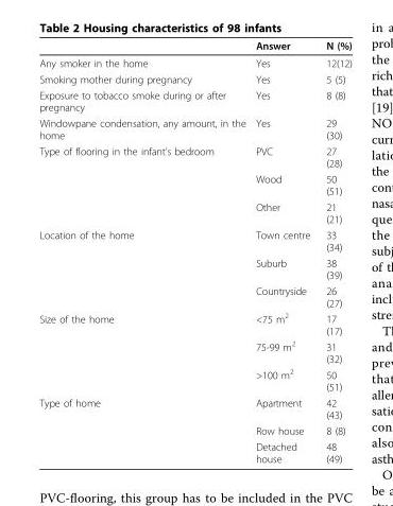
<table><thead><tr><td></td><td>Answer</td><td>N (%)</td></tr></thead><tbody><tr><td>Any smoker in the home</td><td>Yes</td><td>12(12)</td></tr><tr><td>Smoking mother during pregnancy</td><td>Yes</td><td>5 (5)</td></tr><tr><td>Exposure to tobacco smoke during or after pregnancy</td><td>Yes</td><td>8 (8)</td></tr><tr><td>Windowpane condensation, any amount, in the home</td><td>Yes</td><td>29 (30)</td></tr><tr><td rowspan="3">Type of flooring in the infant’s bedroom</td><td>PVC</td><td>27 (28)</td></tr><tr><td>Wood</td><td>50 (51)</td></tr><tr><td>Other</td><td>21 (21)</td></tr><tr><td rowspan="3">Location of the home</td><td>Town centre</td><td>33 (34)</td></tr><tr><td>Suburb</td><td>38 (39)</td></tr><tr><td>Countryside</td><td>26 (27)</td></tr><tr><td rowspan="3">Size of the home</td><td>&lt;75 m<sup>2</sup></td><td>17 (17)</td></tr><tr><td>75-99 m<sup>2</sup></td><td>31 (32)</td></tr><tr><td>&gt;100 m<sup>2</sup></td><td>50 (51)</td></tr><tr><td rowspan="3">Type of home</td><td>Apartment</td><td>42 (43)</td></tr><tr><td>Row house</td><td>8 (8)</td></tr><tr><td>Detached house</td><td>48 (49)</td></tr></tbody></table>